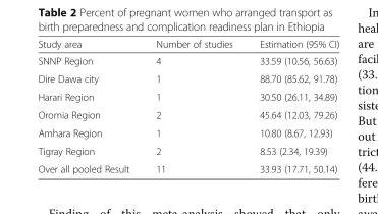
<table><thead><tr><td>Study area</td><td>Number of studies</td><td>Estimation (95% CI)</td></tr></thead><tbody><tr><td>SNNP Region</td><td>4</td><td>33.59 (10.56, 56.63)</td></tr><tr><td>Dire Dawa city</td><td>1</td><td>88.70 (85.62, 91.78)</td></tr><tr><td>Harari Region</td><td>1</td><td>30.50 (26.11, 34.89)</td></tr><tr><td>Oromia Region</td><td>2</td><td>45.64 (12.03, 79.26)</td></tr><tr><td>Amhara Region</td><td>1</td><td>10.80 (8.67, 12.93)</td></tr><tr><td>Tigray Region</td><td>2</td><td>8.53 (2.34, 19.39)</td></tr><tr><td>Over all pooled Result</td><td>11</td><td>33.93 (17.71, 50.14)</td></tr></tbody></table>